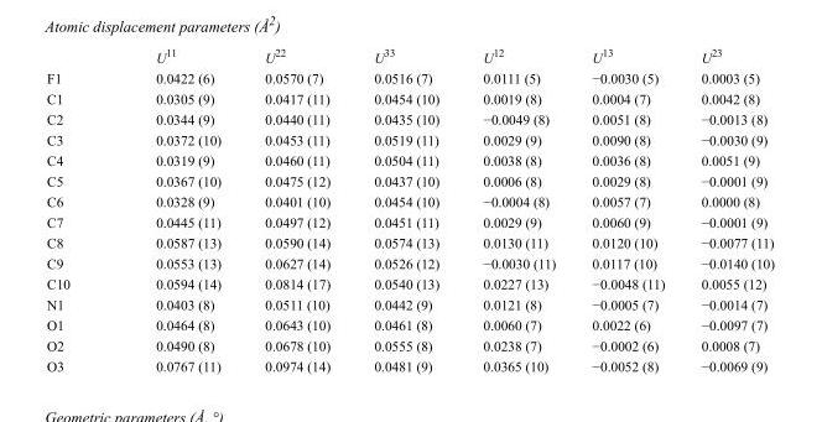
<table><thead><tr><td></td><td>U<sup>11</sup></td><td>U<sup>22</sup></td><td>U<sup>33</sup></td><td>U<sup>12</sup></td><td>U<sup>13</sup></td><td>U<sup>23</sup></td></tr></thead><tbody><tr><td>F1</td><td>0.0422 (6)</td><td>0.0570 (7)</td><td>0.0516 (7)</td><td>0.0111 (5)</td><td>−0.0030 (5)</td><td>0.0003 (5)</td></tr><tr><td>C1</td><td>0.0305 (9)</td><td>0.0417 (11)</td><td>0.0454 (10)</td><td>0.0019 (8)</td><td>0.0004 (7)</td><td>0.0042 (8)</td></tr><tr><td>C2</td><td>0.0344 (9)</td><td>0.0440 (11)</td><td>0.0435 (10)</td><td>−0.0049 (8)</td><td>0.0051 (8)</td><td>−0.0013 (8)</td></tr><tr><td>C3</td><td>0.0372 (10)</td><td>0.0453 (11)</td><td>0.0519 (11)</td><td>0.0029 (9)</td><td>0.0090 (8)</td><td>−0.0030 (9)</td></tr><tr><td>C4</td><td>0.0319 (9)</td><td>0.0460 (11)</td><td>0.0504 (11)</td><td>0.0038 (8)</td><td>0.0036 (8)</td><td>0.0051 (9)</td></tr><tr><td>C5</td><td>0.0367 (10)</td><td>0.0475 (12)</td><td>0.0437 (10)</td><td>0.0006 (8)</td><td>0.0029 (8)</td><td>−0.0001 (9)</td></tr><tr><td>C6</td><td>0.0328 (9)</td><td>0.0401 (10)</td><td>0.0454 (10)</td><td>−0.0004 (8)</td><td>0.0057 (7)</td><td>0.0000 (8)</td></tr><tr><td>C7</td><td>0.0445 (11)</td><td>0.0497 (12)</td><td>0.0451 (11)</td><td>0.0029 (9)</td><td>0.0060 (9)</td><td>−0.0001 (9)</td></tr><tr><td>C8</td><td>0.0587 (13)</td><td>0.0590 (14)</td><td>0.0574 (13)</td><td>0.0130 (11)</td><td>0.0120 (10)</td><td>−0.0077 (11)</td></tr><tr><td>C9</td><td>0.0553 (13)</td><td>0.0627 (14)</td><td>0.0526 (12)</td><td>−0.0030 (11)</td><td>0.0117 (10)</td><td>−0.0140 (10)</td></tr><tr><td>C10</td><td>0.0594 (14)</td><td>0.0814 (17)</td><td>0.0540 (13)</td><td>0.0227 (13)</td><td>−0.0048 (11)</td><td>0.0055 (12)</td></tr><tr><td>N1</td><td>0.0403 (8)</td><td>0.0511 (10)</td><td>0.0442 (9)</td><td>0.0121 (8)</td><td>−0.0005 (7)</td><td>−0.0014 (7)</td></tr><tr><td>O1</td><td>0.0464 (8)</td><td>0.0643 (10)</td><td>0.0461 (8)</td><td>0.0060 (7)</td><td>0.0022 (6)</td><td>−0.0097 (7)</td></tr><tr><td>O2</td><td>0.0490 (8)</td><td>0.0678 (10)</td><td>0.0555 (8)</td><td>0.0238 (7)</td><td>−0.0002 (6)</td><td>0.0008 (7)</td></tr><tr><td>O3</td><td>0.0767 (11)</td><td>0.0974 (14)</td><td>0.0481 (9)</td><td>0.0365 (10)</td><td>−0.0052 (8)</td><td>−0.0069 (9)</td></tr></tbody></table>